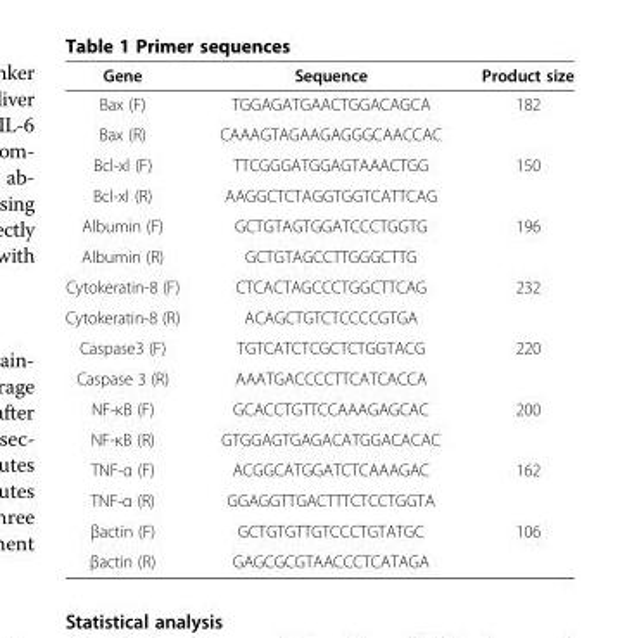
<table><thead><tr><td>Gene</td><td>Sequence</td><td>Product size</td></tr></thead><tbody><tr><td>Bax (F)</td><td>TGGAGATGAACTGGACAGCA</td><td>182</td></tr><tr><td>Bax (R)</td><td>CAAAGTAGAAGAGGGCAACCAC</td><td></td></tr><tr><td>Bcl-xl (F)</td><td>TTCGGGATGGAGTAAACTGG</td><td>150</td></tr><tr><td>Bcl-xl (R)</td><td>AAGGCTCTAGGTGGTCATTCAG</td><td></td></tr><tr><td>Albumin (F)</td><td>GCTGTAGTGGATCCCTGGTG</td><td>196</td></tr><tr><td>Albumin (R)</td><td>GCTGTAGCCTTGGGCTTG</td><td></td></tr><tr><td>Cytokeratin-8 (F)</td><td>CTCACTAGCCCTGGCTTCAG</td><td>232</td></tr><tr><td>Cytokeratin-8 (R)</td><td>ACAGCTGTCTCCCCGTGA</td><td></td></tr><tr><td>Caspase3 (F)</td><td>TGTCATCTCGCTCTGGTACG</td><td>220</td></tr><tr><td>Caspase 3 (R)</td><td>AAATGACCCCTTCATCACCA</td><td></td></tr><tr><td>NF-κB (F)</td><td>GCACCTGTTCCAAAGAGCAC</td><td>200</td></tr><tr><td>NF-κB (R)</td><td>GTGGAGTGAGACATGGACACAC</td><td></td></tr><tr><td>TNF-α (F)</td><td>ACGGCATGGATCTCAAAGAC</td><td>162</td></tr><tr><td>TNF-α (R)</td><td>GGAGGTTGACTTTCTCCTGGTA</td><td></td></tr><tr><td>βactin (F)</td><td>GCTGTGTTGTCCCTGTATGC</td><td>106</td></tr><tr><td>βactin (R)</td><td>GAGCGCGTAACCCTCATAGA</td><td></td></tr></tbody></table>